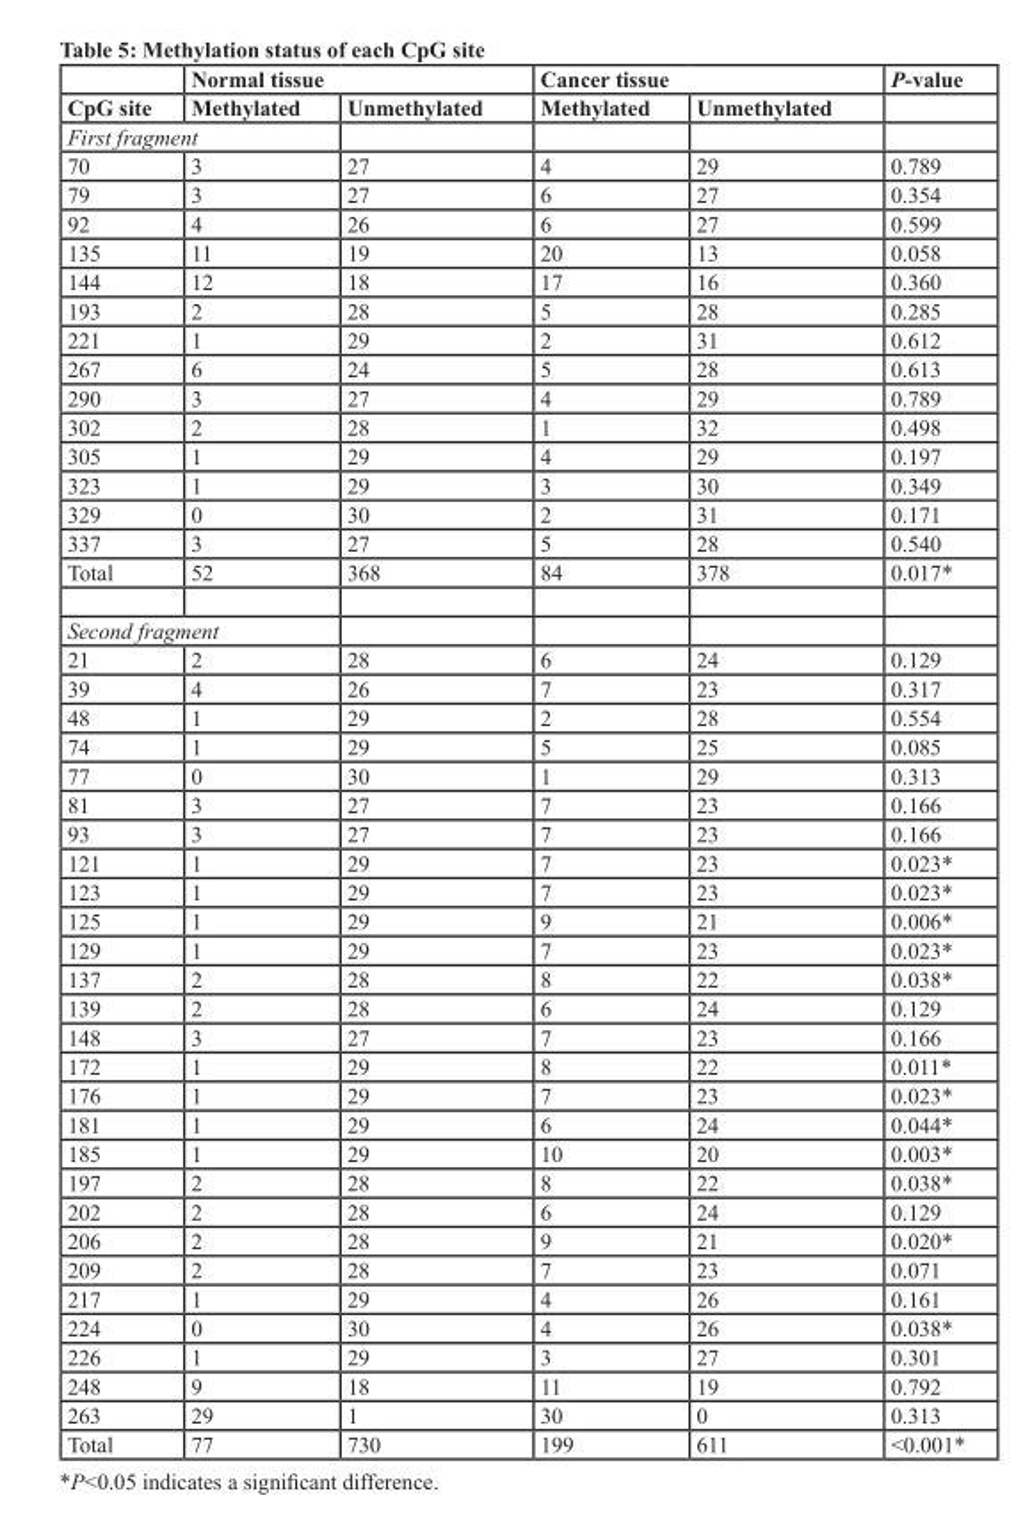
<table><thead><tr><td rowspan="2">CpG site</td><td colspan="2">Normal tissue</td><td colspan="2">Cancer tissue</td><td rowspan="2">P-value</td></tr><tr><td>Methylated</td><td>Unmethylated</td><td>Methylated</td><td>Unmethylated</td></tr></thead><tbody><tr><td colspan="6">First fragment</td></tr><tr><td>70</td><td>3</td><td>27</td><td>4</td><td>29</td><td>0.789</td></tr><tr><td>79</td><td>3</td><td>27</td><td>6</td><td>27</td><td>0.354</td></tr><tr><td>92</td><td>4</td><td>26</td><td>6</td><td>27</td><td>0.599</td></tr><tr><td>135</td><td>11</td><td>19</td><td>20</td><td>13</td><td>0.058</td></tr><tr><td>144</td><td>12</td><td>18</td><td>17</td><td>16</td><td>0.360</td></tr><tr><td>193</td><td>2</td><td>28</td><td>5</td><td>28</td><td>0.285</td></tr><tr><td>221</td><td>1</td><td>29</td><td>2</td><td>31</td><td>0.612</td></tr><tr><td>267</td><td>6</td><td>24</td><td>5</td><td>28</td><td>0.613</td></tr><tr><td>290</td><td>3</td><td>27</td><td>4</td><td>29</td><td>0.789</td></tr><tr><td>302</td><td>2</td><td>28</td><td>1</td><td>32</td><td>0.498</td></tr><tr><td>305</td><td>1</td><td>29</td><td>4</td><td>29</td><td>0.197</td></tr><tr><td>323</td><td>1</td><td>29</td><td>3</td><td>30</td><td>0.349</td></tr><tr><td>329</td><td>0</td><td>30</td><td>2</td><td>31</td><td>0.171</td></tr><tr><td>337</td><td>3</td><td>27</td><td>5</td><td>28</td><td>0.540</td></tr><tr><td>Total</td><td>52</td><td>368</td><td>84</td><td>378</td><td>0.017*</td></tr><tr><td colspan="6">Second fragment</td></tr><tr><td>21</td><td>2</td><td>28</td><td>6</td><td>24</td><td>0.129</td></tr><tr><td>39</td><td>4</td><td>26</td><td>7</td><td>23</td><td>0.317</td></tr><tr><td>48</td><td>1</td><td>29</td><td>2</td><td>28</td><td>0.554</td></tr><tr><td>74</td><td>1</td><td>29</td><td>5</td><td>25</td><td>0.085</td></tr><tr><td>77</td><td>0</td><td>30</td><td>1</td><td>29</td><td>0.313</td></tr><tr><td>81</td><td>3</td><td>27</td><td>7</td><td>23</td><td>0.166</td></tr><tr><td>93</td><td>3</td><td>27</td><td>7</td><td>23</td><td>0.166</td></tr><tr><td>121</td><td>1</td><td>29</td><td>7</td><td>23</td><td>0.023*</td></tr><tr><td>123</td><td>1</td><td>29</td><td>7</td><td>23</td><td>0.023*</td></tr><tr><td>125</td><td>1</td><td>29</td><td>9</td><td>21</td><td>0.006*</td></tr><tr><td>129</td><td>1</td><td>29</td><td>7</td><td>23</td><td>0.023*</td></tr><tr><td>137</td><td>2</td><td>28</td><td>8</td><td>22</td><td>0.038*</td></tr><tr><td>139</td><td>2</td><td>28</td><td>6</td><td>24</td><td>0.129</td></tr><tr><td>148</td><td>3</td><td>27</td><td>7</td><td>23</td><td>0.166</td></tr><tr><td>172</td><td>1</td><td>29</td><td>8</td><td>22</td><td>0.011*</td></tr><tr><td>176</td><td>1</td><td>29</td><td>7</td><td>23</td><td>0.023*</td></tr><tr><td>181</td><td>1</td><td>29</td><td>6</td><td>24</td><td>0.044*</td></tr><tr><td>185</td><td>1</td><td>29</td><td>10</td><td>20</td><td>0.003*</td></tr><tr><td>197</td><td>2</td><td>28</td><td>8</td><td>22</td><td>0.038*</td></tr><tr><td>202</td><td>2</td><td>28</td><td>6</td><td>24</td><td>0.129</td></tr><tr><td>206</td><td>2</td><td>28</td><td>9</td><td>21</td><td>0.020*</td></tr><tr><td>209</td><td>2</td><td>28</td><td>7</td><td>23</td><td>0.071</td></tr><tr><td>217</td><td>1</td><td>29</td><td>4</td><td>26</td><td>0.161</td></tr><tr><td>224</td><td>0</td><td>30</td><td>4</td><td>26</td><td>0.038*</td></tr><tr><td>226</td><td>1</td><td>29</td><td>3</td><td>27</td><td>0.301</td></tr><tr><td>248</td><td>9</td><td>18</td><td>11</td><td>19</td><td>0.792</td></tr><tr><td>263</td><td>29</td><td>1</td><td>30</td><td>0</td><td>0.313</td></tr><tr><td>Total</td><td>77</td><td>730</td><td>199</td><td>611</td><td>&lt;0.001*</td></tr></tbody></table>